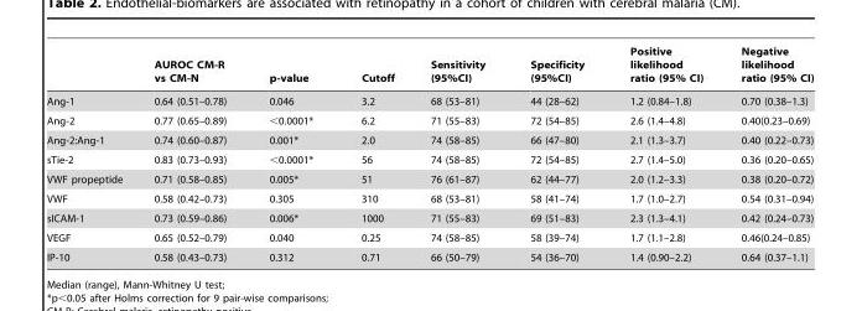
<table><thead><tr><td></td><td>AUROC CM-R vs CM-N</td><td>p-value</td><td>Cutoff</td><td>Sensitivity (95%CI)</td><td>Specificity (95%CI)</td><td>Positive likelihood ratio (95% CI)</td><td>Negative likelihood ratio (95% CI)</td></tr></thead><tbody><tr><td>Ang-1</td><td>0.64 (0.51–0.78)</td><td>0.046</td><td>3.2</td><td>68 (53–81)</td><td>44 (28–62)</td><td>1.2 (0.84–1.8)</td><td>0.70 (0.38–1.3)</td></tr><tr><td>Ang-2</td><td>0.77 (0.65–0.89)</td><td>&lt;0.0001*</td><td>6.2</td><td>71 (55–83)</td><td>72 (54–85)</td><td>2.6 (1.4–4.8)</td><td>0.40(0.23–0.69)</td></tr><tr><td>Ang-2:Ang-1</td><td>0.74 (0.60–0.87)</td><td>0.001*</td><td>2.0</td><td>74 (58–85)</td><td>66 (47–80)</td><td>2.1 (1.3–3.7)</td><td>0.40 (0.22–0.73)</td></tr><tr><td>sTie-2</td><td>0.83 (0.73–0.93)</td><td>&lt;0.0001*</td><td>56</td><td>74 (58–85)</td><td>72 (54–85)</td><td>2.7 (1.4–5.0)</td><td>0.36 (0.20–0.65)</td></tr><tr><td>VWF propeptide</td><td>0.71 (0.58–0.85)</td><td>0.005*</td><td>51</td><td>76 (61–87)</td><td>62 (44–77)</td><td>2.0 (1.2–3.3)</td><td>0.38 (0.20–0.72)</td></tr><tr><td>VWF</td><td>0.58 (0.42–0.73)</td><td>0.305</td><td>310</td><td>68 (53–81)</td><td>58 (41–74)</td><td>1.7 (1.0–2.7)</td><td>0.54 (0.31–0.94)</td></tr><tr><td>sICAM-1</td><td>0.73 (0.59–0.86)</td><td>0.006*</td><td>1000</td><td>71 (55–83)</td><td>69 (51–83)</td><td>2.3 (1.3–4.1)</td><td>0.42 (0.24–0.73)</td></tr><tr><td>VEGF</td><td>0.65 (0.52–0.79)</td><td>0.040</td><td>0.25</td><td>74 (58–85)</td><td>58 (39–74)</td><td>1.7 (1.1–2.8)</td><td>0.46(0.24–0.85)</td></tr><tr><td>IP-10</td><td>0.58 (0.43–0.73)</td><td>0.312</td><td>0.71</td><td>66 (50–79)</td><td>54 (36–70)</td><td>1.4 (0.90–2.2)</td><td>0.64 (0.37–1.1)</td></tr></tbody></table>